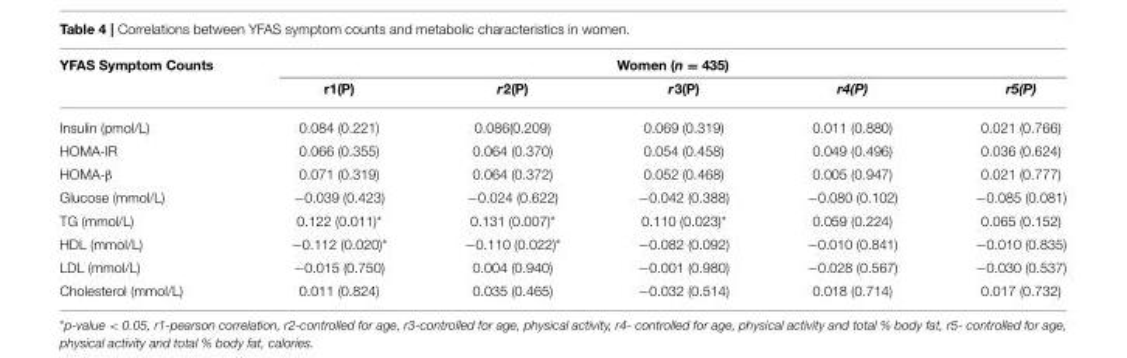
<table><thead><tr><td rowspan="2">YFAS Symptom Counts</td><td colspan="5">Women (n = 435)</td></tr><tr><td>r1(P)</td><td>r2(P)</td><td>r3(P)</td><td>r4(P)</td><td>r5(P)</td></tr></thead><tbody><tr><td>Insulin (pmol/L)</td><td>0.084 (0.221)</td><td>0.086(0.209)</td><td>0.069 (0.319)</td><td>0.011 (0.880)</td><td>0.021 (0.766)</td></tr><tr><td>HOMA-IR</td><td>0.066 (0.355)</td><td>0.064 (0.370)</td><td>0.054 (0.458)</td><td>0.049 (0.496)</td><td>0.036 (0.624)</td></tr><tr><td>HOMA-β</td><td>0.071 (0.319)</td><td>0.064 (0.372)</td><td>0.052 (0.468)</td><td>0.005 (0.947)</td><td>0.021 (0.777)</td></tr><tr><td>Glucose (mmol/L)</td><td>−0.039 (0.423)</td><td>−0.024 (0.622)</td><td>−0.042 (0.388)</td><td>−0.080 (0.102)</td><td>−0.085 (0.081)</td></tr><tr><td>TG (mmol/L)</td><td>0.122 (0.011)*</td><td>0.131 (0.007)*</td><td>0.110 (0.023)*</td><td>0.059 (0.224)</td><td>0.065 (0.152)</td></tr><tr><td>HDL (mmol/L)</td><td>−0.112 (0.020)*</td><td>−0.110 (0.022)*</td><td>−0.082 (0.092)</td><td>−0.010 (0.841)</td><td>−0.010 (0.835)</td></tr><tr><td>LDL (mmol/L)</td><td>−0.015 (0.750)</td><td>0.004 (0.940)</td><td>−0.001 (0.980)</td><td>−0.028 (0.567)</td><td>−0.030 (0.537)</td></tr><tr><td>Cholesterol (mmol/L)</td><td>0.011 (0.824)</td><td>0.035 (0.465)</td><td>−0.032 (0.514)</td><td>0.018 (0.714)</td><td>0.017 (0.732)</td></tr></tbody></table>